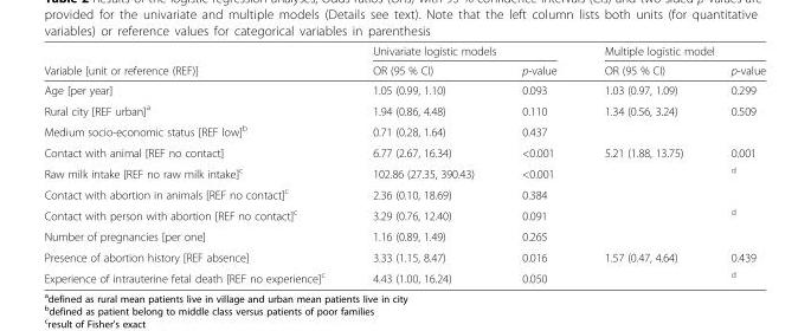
<table><thead><tr><td rowspan="2">Variable [unit or reference (REF)]</td><td colspan="2">Univariate logistic models</td><td colspan="2">Multiple logistic model</td></tr><tr><td>OR (95 % CI)</td><td>p-value</td><td>OR (95 % CI)</td><td>p-value</td></tr></thead><tbody><tr><td>Age [per year]</td><td>1.05 (0.99, 1.10)</td><td>0.093</td><td>1.03 (0.97, 1.09)</td><td>0.299</td></tr><tr><td>Rural city [REF urban]<sup>a</sup></td><td>1.94 (0.86, 4.48)</td><td>0.110</td><td>1.34 (0.56, 3.24)</td><td>0.509</td></tr><tr><td>Medium socio-economic status [REF low]<sup>b</sup></td><td>0.71 (0.28, 1.64)</td><td>0.437</td><td></td><td></td></tr><tr><td>Contact with animal [REF no contact]</td><td>6.77 (2.67, 16.34)</td><td>&lt;0.001</td><td>5.21 (1.88, 13.75)</td><td>0.001</td></tr><tr><td>Raw milk intake [REF no raw milk intake]<sup>c</sup></td><td>102.86 (27.35, 390.43)</td><td>&lt;0.001</td><td></td><td><sup>d</sup></td></tr><tr><td>Contact with abortion in animals [REF no contact]<sup>c</sup></td><td>2.36 (0.10, 18.69)</td><td>0.384</td><td></td><td></td></tr><tr><td>Contact with person with abortion [REF no contact]<sup>c</sup></td><td>3.29 (0.76, 12.40)</td><td>0.091</td><td></td><td><sup>d</sup></td></tr><tr><td>Number of pregnancies [per one]</td><td>1.16 (0.89, 1.49)</td><td>0.265</td><td></td><td></td></tr><tr><td>Presence of abortion history [REF absence]</td><td>3.33 (1.15, 8.47)</td><td>0.016</td><td>1.57 (0.47, 4.64)</td><td>0.439</td></tr><tr><td>Experience of intrauterine fetal death [REF no experience]<sup>c</sup></td><td>4.43 (1.00, 16.24)</td><td>0.050</td><td></td><td><sup>d</sup></td></tr></tbody></table>